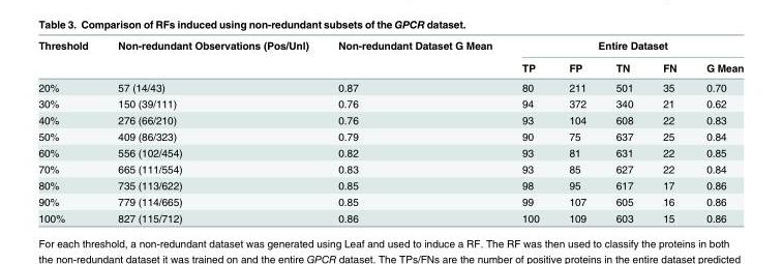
<table><thead><tr><td rowspan="2">Threshold</td><td rowspan="2">Non-redundant Observations (Pos/Unl)</td><td rowspan="2">Non-redundant Dataset G Mean</td><td colspan="5">Entire Dataset</td></tr><tr><td>TP</td><td>FP</td><td>TN</td><td>FN</td><td>G Mean</td></tr></thead><tbody><tr><td>20%</td><td>57 (14/43)</td><td>0.87</td><td>80</td><td>211</td><td>501</td><td>35</td><td>0.70</td></tr><tr><td>30%</td><td>150 (39/111)</td><td>0.76</td><td>94</td><td>372</td><td>340</td><td>21</td><td>0.62</td></tr><tr><td>40%</td><td>276 (66/210)</td><td>0.76</td><td>93</td><td>104</td><td>608</td><td>22</td><td>0.83</td></tr><tr><td>50%</td><td>409 (86/323)</td><td>0.79</td><td>90</td><td>75</td><td>637</td><td>25</td><td>0.84</td></tr><tr><td>60%</td><td>556 (102/454)</td><td>0.82</td><td>93</td><td>81</td><td>631</td><td>22</td><td>0.85</td></tr><tr><td>70%</td><td>665 (111/554)</td><td>0.83</td><td>93</td><td>85</td><td>627</td><td>22</td><td>0.84</td></tr><tr><td>80%</td><td>735 (113/622)</td><td>0.85</td><td>98</td><td>95</td><td>617</td><td>17</td><td>0.86</td></tr><tr><td>90%</td><td>779 (114/665)</td><td>0.85</td><td>99</td><td>107</td><td>605</td><td>16</td><td>0.86</td></tr><tr><td>100%</td><td>827 (115/712)</td><td>0.86</td><td>100</td><td>109</td><td>603</td><td>15</td><td>0.86</td></tr></tbody></table>